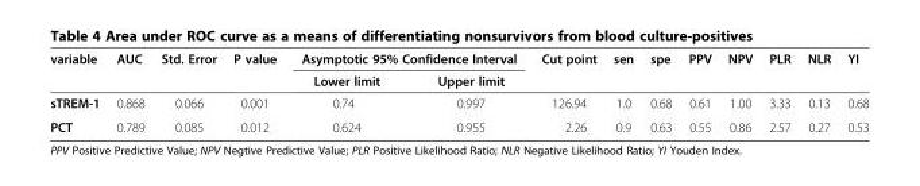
<table><thead><tr><td rowspan="2">variable</td><td rowspan="2">AUC</td><td rowspan="2">Std. Error</td><td rowspan="2">P value</td><td colspan="2">Asymptotic 95% Confidence Interval</td><td rowspan="2">Cut point</td><td rowspan="2">sen</td><td rowspan="2">spe</td><td rowspan="2">PPV</td><td rowspan="2">NPV</td><td rowspan="2">PLR</td><td rowspan="2">NLR</td><td rowspan="2">YI</td></tr><tr><td>Lower limit</td><td>Upper limit</td></tr></thead><tbody><tr><td>sTREM-1</td><td>0.868</td><td>0.066</td><td>0.001</td><td>0.74</td><td>0.997</td><td>126.94</td><td>1.0</td><td>0.68</td><td>0.61</td><td>1.00</td><td>3.33</td><td>0.13</td><td>0.68</td></tr><tr><td>PCT</td><td>0.789</td><td>0.085</td><td>0.012</td><td>0.624</td><td>0.955</td><td>2.26</td><td>0.9</td><td>0.63</td><td>0.55</td><td>0.86</td><td>2.57</td><td>0.27</td><td>0.53</td></tr></tbody></table>